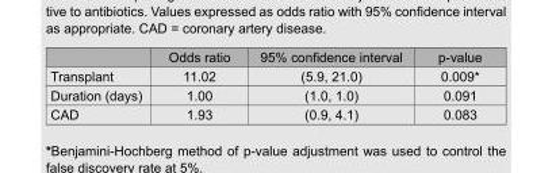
<table><thead><tr><td></td><td>Odds ratio</td><td>95% confidence interval</td><td>p-value</td></tr></thead><tbody><tr><td>Transplant</td><td>11.02</td><td>(5.9, 21.0)</td><td>0.009*</td></tr><tr><td>Duration (days)</td><td>1.00</td><td>(1.0, 1.0)</td><td>0.091</td></tr><tr><td>CAD</td><td>1.93</td><td>(0.9, 4.1)</td><td>0.083</td></tr></tbody></table>